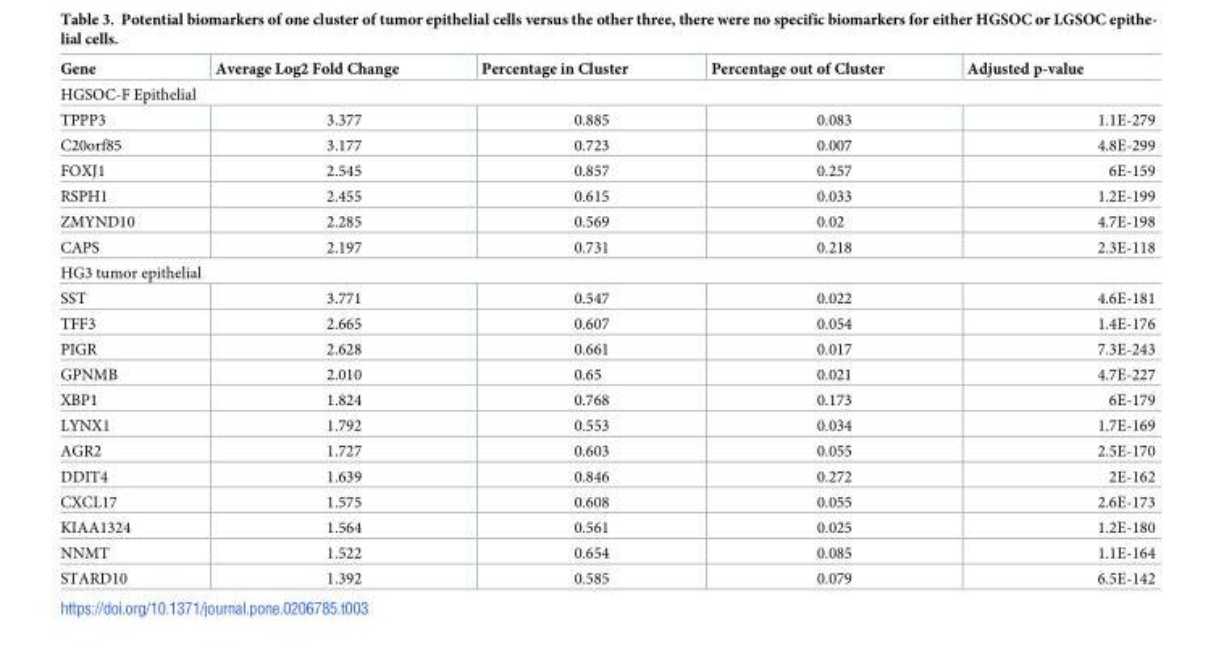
<table><thead><tr><td>Gene</td><td>Average Log2 Fold Change</td><td>Percentage in Cluster</td><td>Percentage out of Cluster</td><td>Adjusted p-value</td></tr></thead><tbody><tr><td colspan="5">HGSOC-F Epithelial</td></tr><tr><td>TPPP3</td><td>3.377</td><td>0.885</td><td>0.083</td><td>1.1E-279</td></tr><tr><td>C20orf85</td><td>3.177</td><td>0.723</td><td>0.007</td><td>4.8E-299</td></tr><tr><td>FOXJ1</td><td>2.545</td><td>0.857</td><td>0.257</td><td>6E-159</td></tr><tr><td>RSPH1</td><td>2.455</td><td>0.615</td><td>0.033</td><td>1.2E-199</td></tr><tr><td>ZMYND10</td><td>2.285</td><td>0.569</td><td>0.02</td><td>4.7E-198</td></tr><tr><td>CAPS</td><td>2.197</td><td>0.731</td><td>0.218</td><td>2.3E-118</td></tr><tr><td colspan="5">HG3 tumor epithelial</td></tr><tr><td>SST</td><td>3.771</td><td>0.547</td><td>0.022</td><td>4.6E-181</td></tr><tr><td>TFF3</td><td>2.665</td><td>0.607</td><td>0.054</td><td>1.4E-176</td></tr><tr><td>PIGR</td><td>2.628</td><td>0.661</td><td>0.017</td><td>7.3E-243</td></tr><tr><td>GPNMB</td><td>2.010</td><td>0.65</td><td>0.021</td><td>4.7E-227</td></tr><tr><td>XBP1</td><td>1.824</td><td>0.768</td><td>0.173</td><td>6E-179</td></tr><tr><td>LYNX1</td><td>1.792</td><td>0.553</td><td>0.034</td><td>1.7E-169</td></tr><tr><td>AGR2</td><td>1.727</td><td>0.603</td><td>0.055</td><td>2.5E-170</td></tr><tr><td>DDIT4</td><td>1.639</td><td>0.846</td><td>0.272</td><td>2E-162</td></tr><tr><td>CXCL17</td><td>1.575</td><td>0.608</td><td>0.055</td><td>2.6E-173</td></tr><tr><td>KIAA1324</td><td>1.564</td><td>0.561</td><td>0.025</td><td>1.2E-180</td></tr><tr><td>NNMT</td><td>1.522</td><td>0.654</td><td>0.085</td><td>1.1E-164</td></tr><tr><td>STARD10</td><td>1.392</td><td>0.585</td><td>0.079</td><td>6.5E-142</td></tr></tbody></table>